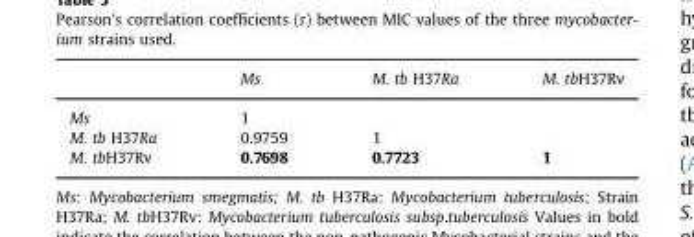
<table><thead><tr><td></td><td>Ms</td><td>M. tb H37Ra</td><td>M. tbH37Rv</td></tr></thead><tbody><tr><td>Ms</td><td>1</td><td></td><td></td></tr><tr><td>M. tb H37Ra</td><td>0.9759</td><td>1</td><td></td></tr><tr><td>M. tbH37Rv</td><td>0.7698</td><td>0.7723</td><td>1</td></tr></tbody></table>